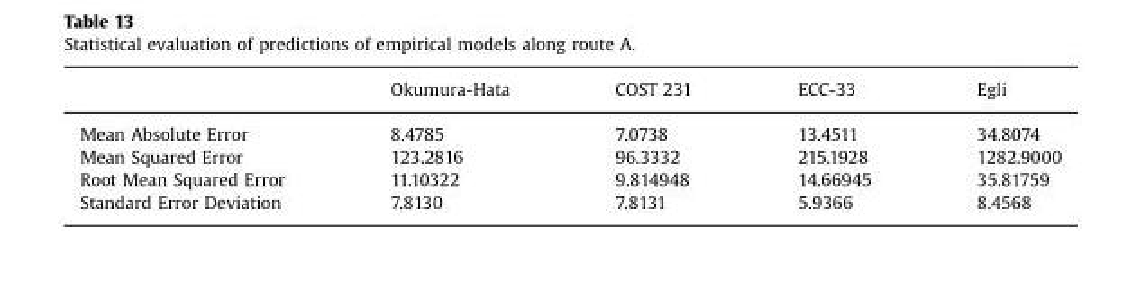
<table><thead><tr><td></td><td>Okumura-Hata</td><td>COST 231</td><td>ECC-33</td><td>Egli</td></tr></thead><tbody><tr><td>Mean Absolute Error</td><td>8.4785</td><td>7.0738</td><td>13.4511</td><td>34.8074</td></tr><tr><td>Mean Squared Error</td><td>123.2816</td><td>96.3332</td><td>215.1928</td><td>1282.9000</td></tr><tr><td>Root Mean Squared Error</td><td>11.10322</td><td>9.814948</td><td>14.66945</td><td>35.81759</td></tr><tr><td>Standard Error Deviation</td><td>7.8130</td><td>7.8131</td><td>5.9366</td><td>8.4568</td></tr></tbody></table>